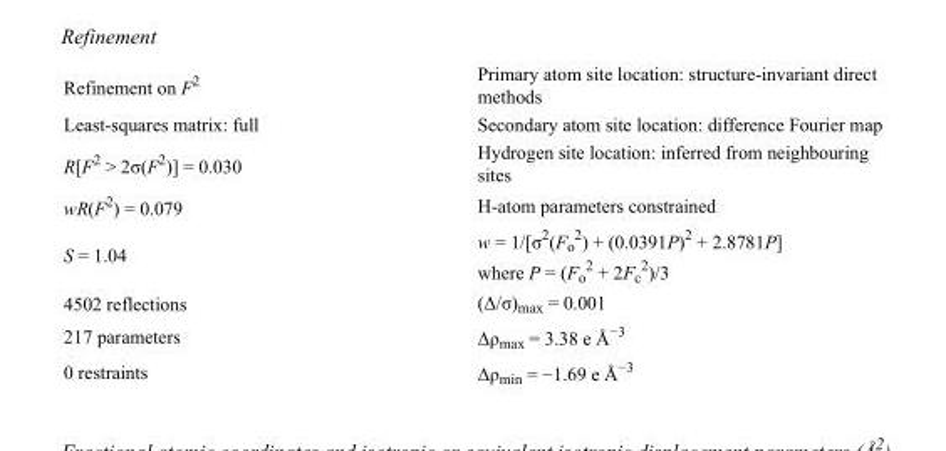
<table><tbody><tr><td>Refinement on F<sup>2</sup></td><td>Primary atom site location: structure-invariant direct methods</td></tr><tr><td>Least-squares matrix: full</td><td>Secondary atom site location: difference Fourier map</td></tr><tr><td>R[F<sup>2</sup> &gt; 2σ(F<sup>2</sup>)] = 0.030</td><td>Hydrogen site location: inferred from neighbouring sites</td></tr><tr><td>wR(F<sup>2</sup>) = 0.079</td><td>H-atom parameters constrained</td></tr><tr><td>S = 1.04</td><td>w = 1/[σ<sup>2</sup>(F<sub>o</sub> <sup>2</sup>) + (0.0391P)<sup>2</sup> + 2.8781P] where P = (F<sub>o</sub> <sup>2</sup> + 2F<sub>c</sub> <sup>2</sup>)/3</td></tr><tr><td>4502 reflections</td><td>(Δ/σ)<sub>max</sub> = 0.001</td></tr><tr><td>217 parameters</td><td>Δρ<sub>max</sub> = 3.38 e Å<sup>−3</sup></td></tr><tr><td>0 restraints</td><td>Δρ<sub>min</sub> = −1.69 e Å<sup>−3</sup></td></tr></tbody></table>